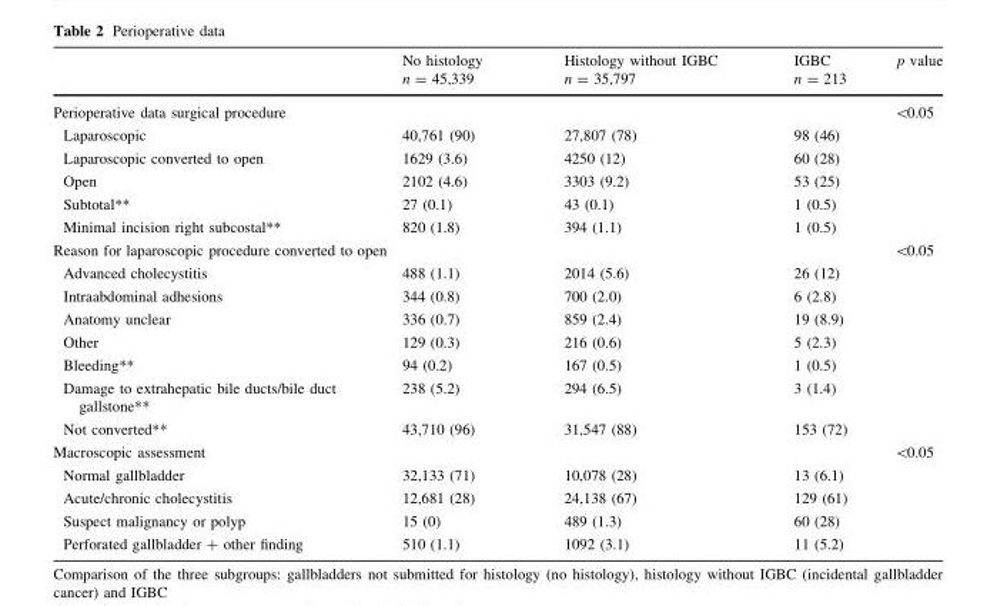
<table><thead><tr><td></td><td>No histology n = 45,339</td><td>Histology without IGBC n = 35,797</td><td>IGBC n = 213</td><td>p value</td></tr></thead><tbody><tr><td>Perioperative data surgical procedure</td><td></td><td></td><td></td><td>&lt;0.05</td></tr><tr><td>Laparoscopic</td><td>40,761 (90)</td><td>27,807 (78)</td><td>98 (46)</td><td></td></tr><tr><td>Laparoscopic converted to open</td><td>1629 (3.6)</td><td>4250 (12)</td><td>60 (28)</td><td></td></tr><tr><td>Open</td><td>2102 (4.6)</td><td>3303 (9.2)</td><td>53 (25)</td><td></td></tr><tr><td>Subtotal**</td><td>27 (0.1)</td><td>43 (0.1)</td><td>1 (0.5)</td><td></td></tr><tr><td>Minimal incision right subcostal**</td><td>820 (1.8)</td><td>394 (1.1)</td><td>1 (0.5)</td><td></td></tr><tr><td>Reason for laparoscopic procedure converted to open</td><td></td><td></td><td></td><td>&lt;0.05</td></tr><tr><td>Advanced cholecystitis</td><td>488 (1.1)</td><td>2014 (5.6)</td><td>26 (12)</td><td></td></tr><tr><td>Intraabdominal adhesions</td><td>344 (0.8)</td><td>700 (2.0)</td><td>6 (2.8)</td><td></td></tr><tr><td>Anatomy unclear</td><td>336 (0.7)</td><td>859 (2.4)</td><td>19 (8.9)</td><td></td></tr><tr><td>Other</td><td>129 (0.3)</td><td>216 (0.6)</td><td>5 (2.3)</td><td></td></tr><tr><td>Bleeding**</td><td>94 (0.2)</td><td>167 (0.5)</td><td>1 (0.5)</td><td></td></tr><tr><td>Damage to extrahepatic bile ducts/bile duct gallstone**</td><td>238 (5.2)</td><td>294 (6.5)</td><td>3 (1.4)</td><td></td></tr><tr><td>Not converted**</td><td>43,710 (96)</td><td>31,547 (88)</td><td>153 (72)</td><td></td></tr><tr><td>Macroscopic assessment</td><td></td><td></td><td></td><td>&lt;0.05</td></tr><tr><td>Normal gallbladder</td><td>32,133 (71)</td><td>10,078 (28)</td><td>13 (6.1)</td><td></td></tr><tr><td>Acute/chronic cholecystitis</td><td>12,681 (28)</td><td>24,138 (67)</td><td>129 (61)</td><td></td></tr><tr><td>Suspect malignancy or polyp</td><td>15 (0)</td><td>489 (1.3)</td><td>60 (28)</td><td></td></tr><tr><td>Perforated gallbladder + other finding</td><td>510 (1.1)</td><td>1092 (3.1)</td><td>11 (5.2)</td><td></td></tr></tbody></table>